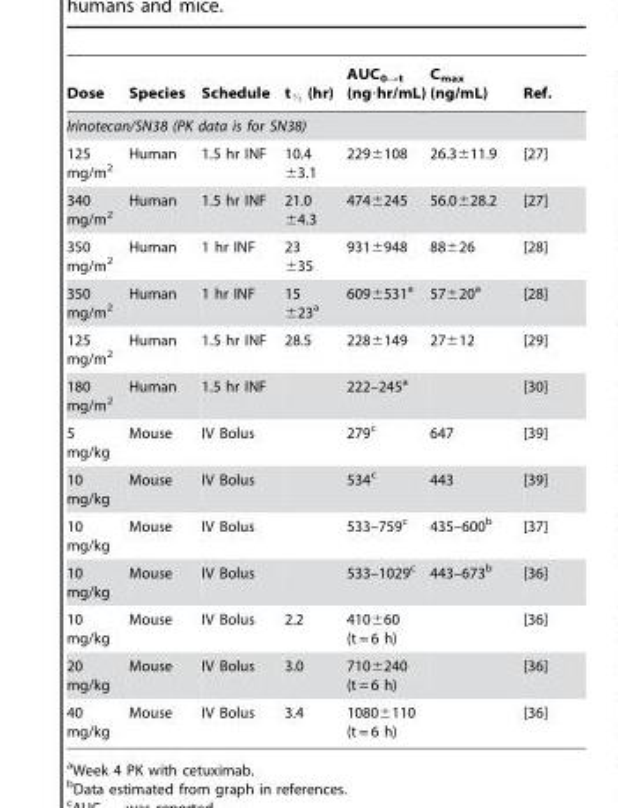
<table><thead><tr><td>Dose</td><td>Species</td><td>Schedule</td><td>tK (hr)</td><td>AUC<sub>0→t</sub> (ng·hr/mL)</td><td>C<sub>max</sub> (ng/mL)</td><td>Ref.</td></tr></thead><tbody><tr><td colspan="7">Irinotecan/SN38 (PK data is for SN38)</td></tr><tr><td>125 mg/m<sup>2</sup></td><td>Human</td><td>1.5 hr INF</td><td>10.4 ±3.1</td><td>229±108</td><td>26.3±11.9</td><td>[27]</td></tr><tr><td>340 mg/m<sup>2</sup></td><td>Human</td><td>1.5 hr INF</td><td>21.0 ±4.3</td><td>474±245</td><td>56.0±28.2</td><td>[27]</td></tr><tr><td>350 mg/m<sup>2</sup></td><td>Human</td><td>1 hr INF</td><td>23 ±35</td><td>931±948</td><td>88±26</td><td>[28]</td></tr><tr><td>350 mg/m<sup>2</sup></td><td>Human</td><td>1 hr INF</td><td>15 ±23<sup>a</sup></td><td>609±531<sup>a</sup></td><td>57±20<sup>a</sup></td><td>[28]</td></tr><tr><td>125 mg/m<sup>2</sup></td><td>Human</td><td>1.5 hr INF</td><td>28.5</td><td>228±149</td><td>27±12</td><td>[29]</td></tr><tr><td>180 mg/m<sup>2</sup></td><td>Human</td><td>1.5 hr INF</td><td></td><td>222–245<sup>a</sup></td><td></td><td>[30]</td></tr><tr><td>5 mg/kg</td><td>Mouse</td><td>IV Bolus</td><td></td><td>279<sup>c</sup></td><td>647</td><td>[39]</td></tr><tr><td>10 mg/kg</td><td>Mouse</td><td>IV Bolus</td><td></td><td>534<sup>c</sup></td><td>443</td><td>[39]</td></tr><tr><td>10 mg/kg</td><td>Mouse</td><td>IV Bolus</td><td></td><td>533–759<sup>c</sup></td><td>435–600<sup>b</sup></td><td>[37]</td></tr><tr><td>10 mg/kg</td><td>Mouse</td><td>IV Bolus</td><td></td><td>533–1029<sup>c</sup></td><td>443–673<sup>b</sup></td><td>[36]</td></tr><tr><td>10 mg/kg</td><td>Mouse</td><td>IV Bolus</td><td>2.2</td><td>410±60 (t = 6 h)</td><td></td><td>[36]</td></tr><tr><td>20 mg/kg</td><td>Mouse</td><td>IV Bolus</td><td>3.0</td><td>710±240 (t = 6 h)</td><td></td><td>[36]</td></tr><tr><td>40 mg/kg</td><td>Mouse</td><td>IV Bolus</td><td>3.4</td><td>1080±110 (t = 6 h)</td><td></td><td>[36]</td></tr></tbody></table>